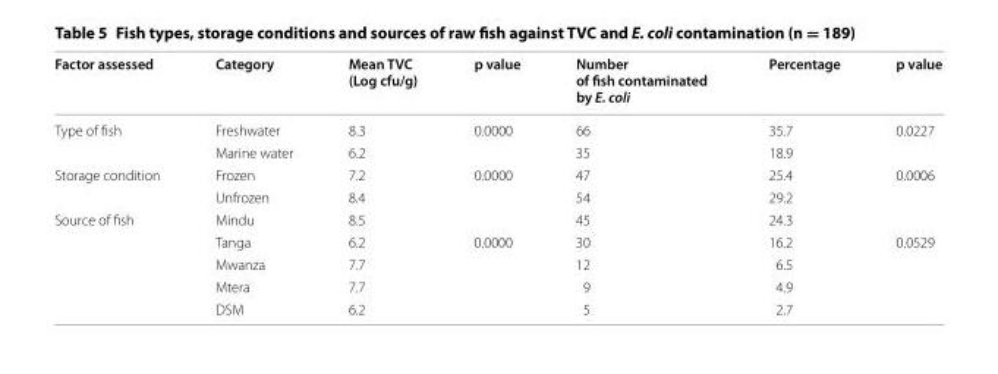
<table><thead><tr><td>Factor assessed</td><td>Category</td><td>Mean TVC (Log cfu/g)</td><td>p value</td><td>Number of fish contaminated by E. coli</td><td>Percentage</td><td>p value</td></tr></thead><tbody><tr><td rowspan="2">Type of fish</td><td>Freshwater</td><td>8.3</td><td rowspan="2">0.0000</td><td>66</td><td>35.7</td><td rowspan="2">0.0227</td></tr><tr><td>Marine water</td><td>6.2</td><td>35</td><td>18.9</td></tr><tr><td rowspan="2">Storage condition</td><td>Frozen</td><td>7.2</td><td rowspan="3">0.0000</td><td>47</td><td>25.4</td><td rowspan="3">0.0006</td></tr><tr><td>Unfrozen</td><td>8.4</td><td>54</td><td>29.2</td></tr><tr><td rowspan="5">Source of fish</td><td>Mindu</td><td>8.5</td><td>45</td><td>24.3</td></tr><tr><td>Tanga</td><td>6.2</td><td rowspan="4">0.0000</td><td>30</td><td>16.2</td><td rowspan="4">0.0529</td></tr><tr><td>Mwanza</td><td>7.7</td><td>12</td><td>6.5</td></tr><tr><td>Mtera</td><td>7.7</td><td>9</td><td>4.9</td></tr><tr><td>DSM</td><td>6.2</td><td>5</td><td>2.7</td></tr></tbody></table>